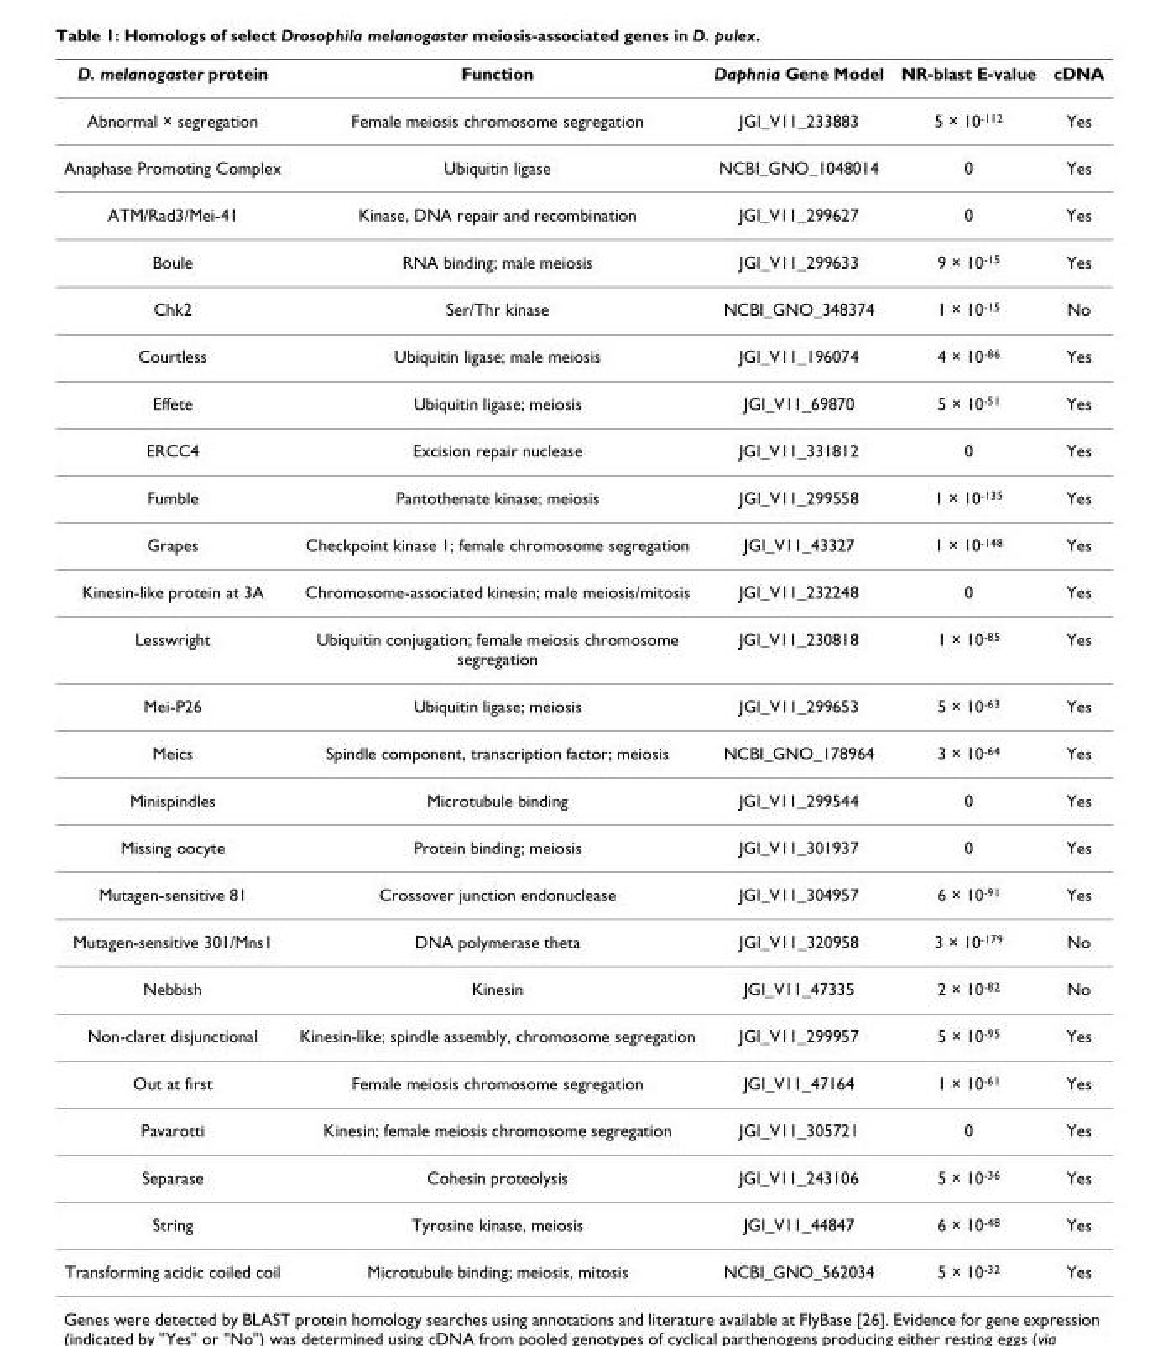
<table><thead><tr><td>D. melanogaster protein</td><td>Function</td><td>Daphnia Gene Model</td><td>NR-blast E-value</td><td>cDNA</td></tr></thead><tbody><tr><td>Abnormal × segregation</td><td>Female meiosis chromosome segregation</td><td>JGI_V11_233883</td><td>5 × 10<sup>-112</sup></td><td>Yes</td></tr><tr><td>Anaphase Promoting Complex</td><td>Ubiquitin ligase</td><td>NCBI_GNO_1048014</td><td>0</td><td>Yes</td></tr><tr><td>ATM/Rad3/Mei-41</td><td>Kinase, DNA repair and recombination</td><td>JGI_V11_299627</td><td>0</td><td>Yes</td></tr><tr><td>Boule</td><td>RNA binding; male meiosis</td><td>JGI_V11_299633</td><td>9 × 10<sup>-15</sup></td><td>Yes</td></tr><tr><td>Chk2</td><td>Ser/Thr kinase</td><td>NCBI_GNO_348374</td><td>1 × 10<sup>-15</sup></td><td>No</td></tr><tr><td>Courtless</td><td>Ubiquitin ligase; male meiosis</td><td>JGI_V11_196074</td><td>4 × 10<sup>-86</sup></td><td>Yes</td></tr><tr><td>Effete</td><td>Ubiquitin ligase; meiosis</td><td>JGI_V11_69870</td><td>5 × 10<sup>-51</sup></td><td>Yes</td></tr><tr><td>ERCC4</td><td>Excision repair nuclease</td><td>JGI_V11_331812</td><td>0</td><td>Yes</td></tr><tr><td>Fumble</td><td>Pantothenate kinase; meiosis</td><td>JGI_V11_299558</td><td>1 × 10<sup>-135</sup></td><td>Yes</td></tr><tr><td>Grapes</td><td>Checkpoint kinase 1; female chromosome segregation</td><td>JGI_V11_43327</td><td>1 × 10<sup>-148</sup></td><td>Yes</td></tr><tr><td>Kinesin-like protein at 3A</td><td>Chromosome-associated kinesin; male meiosis/mitosis</td><td>JGI_V11_232248</td><td>0</td><td>Yes</td></tr><tr><td>Lesswright</td><td>Ubiquitin conjugation; female meiosis chromosome segregation</td><td>JGI_V11_230818</td><td>1 × 10<sup>-85</sup></td><td>Yes</td></tr><tr><td>Mei-P26</td><td>Ubiquitin ligase; meiosis</td><td>JGI_V11_299653</td><td>5 × 10<sup>-63</sup></td><td>Yes</td></tr><tr><td>Meics</td><td>Spindle component, transcription factor; meiosis</td><td>NCBI_GNO_178964</td><td>3 × 10<sup>-64</sup></td><td>Yes</td></tr><tr><td>Minispindles</td><td>Microtubule binding</td><td>JGI_V11_299544</td><td>0</td><td>Yes</td></tr><tr><td>Missing oocyte</td><td>Protein binding; meiosis</td><td>JGI_V11_301937</td><td>0</td><td>Yes</td></tr><tr><td>Mutagen-sensitive 81</td><td>Crossover junction endonuclease</td><td>JGI_V11_304957</td><td>6 × 10<sup>-91</sup></td><td>Yes</td></tr><tr><td>Mutagen-sensitive 301/Mns1</td><td>DNA polymerase theta</td><td>JGI_V11_320958</td><td>3 × 10<sup>-179</sup></td><td>No</td></tr><tr><td>Nebbish</td><td>Kinesin</td><td>JGI_V11_47335</td><td>2 × 10<sup>-82</sup></td><td>No</td></tr><tr><td>Non-claret disjunctional</td><td>Kinesin-like; spindle assembly, chromosome segregation</td><td>JGI_V11_299957</td><td>5 × 10<sup>-95</sup></td><td>Yes</td></tr><tr><td>Out at first</td><td>Female meiosis chromosome segregation</td><td>JGI_V11_47164</td><td>1 × 10<sup>-61</sup></td><td>Yes</td></tr><tr><td>Pavarotti</td><td>Kinesin; female meiosis chromosome segregation</td><td>JGI_V11_305721</td><td>0</td><td>Yes</td></tr><tr><td>Separase</td><td>Cohesin proteolysis</td><td>JGI_V11_243106</td><td>5 × 10<sup>-36</sup></td><td>Yes</td></tr><tr><td>String</td><td>Tyrosine kinase, meiosis</td><td>JGI_V11_44847</td><td>6 × 10<sup>-48</sup></td><td>Yes</td></tr><tr><td>Transforming acidic coiled coil</td><td>Microtubule binding; meiosis, mitosis</td><td>NCBI_GNO_562034</td><td>5 × 10<sup>-32</sup></td><td>Yes</td></tr></tbody></table>